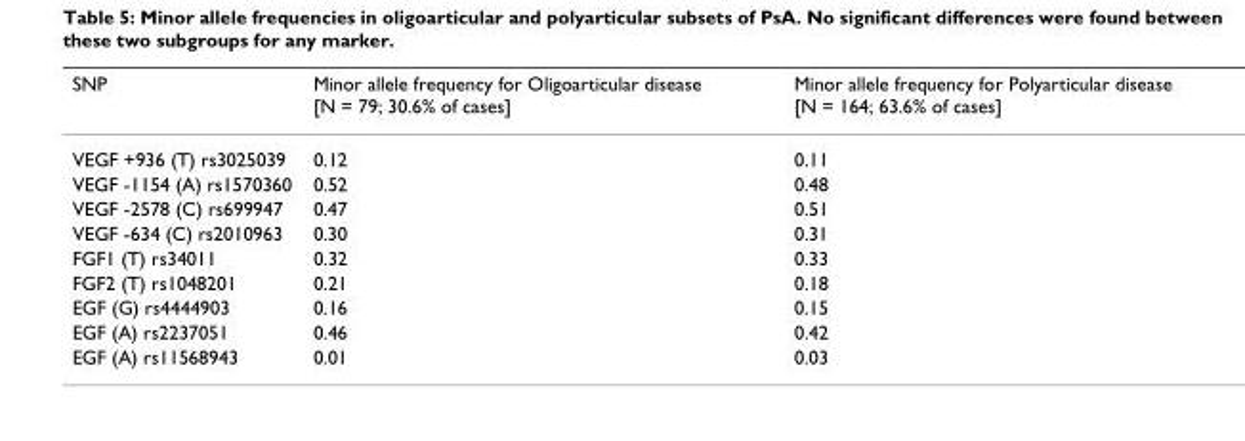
<table><thead><tr><td>SNP</td><td>Minor allele frequency for Oligoarticular disease [N = 79; 30.6% of cases]</td><td>Minor allele frequency for Polyarticular disease [N = 164; 63.6% of cases]</td></tr></thead><tbody><tr><td>VEGF +936 (T) rs3025039</td><td>0.12</td><td>0.11</td></tr><tr><td>VEGF -1154 (A) rs1570360</td><td>0.52</td><td>0.48</td></tr><tr><td>VEGF -2578 (C) rs699947</td><td>0.47</td><td>0.51</td></tr><tr><td>VEGF -634 (C) rs2010963</td><td>0.30</td><td>0.31</td></tr><tr><td>FGF1 (T) rs34011</td><td>0.32</td><td>0.33</td></tr><tr><td>FGF2 (T) rs1048201</td><td>0.21</td><td>0.18</td></tr><tr><td>EGF (G) rs4444903</td><td>0.16</td><td>0.15</td></tr><tr><td>EGF (A) rs2237051</td><td>0.46</td><td>0.42</td></tr><tr><td>EGF (A) rs11568943</td><td>0.01</td><td>0.03</td></tr></tbody></table>